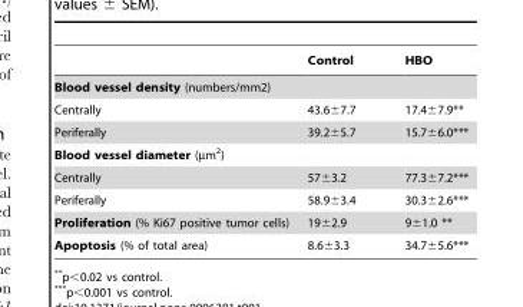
<table><thead><tr><td></td><td>Control</td><td>HBO</td></tr></thead><tbody><tr><td colspan="3">Blood vessel density (numbers/mm2)</td></tr><tr><td>Centrally</td><td>43.6±7.7</td><td>17.4±7.9**</td></tr><tr><td>Periferally</td><td>39.2±5.7</td><td>15.7±6.0***</td></tr><tr><td colspan="3">Blood vessel diameter (µm<sup>2</sup>)</td></tr><tr><td>Centrally</td><td>57±3.2</td><td>77.3±7.2***</td></tr><tr><td>Periferally</td><td>58.9±3.4</td><td>30.3±2.6***</td></tr><tr><td>Proliferation (% Ki67 positive tumor cells)</td><td>19±2.9</td><td>9±1.0 **</td></tr><tr><td>Apoptosis (% of total area)</td><td>8.6±3.3</td><td>34.7±5.6***</td></tr></tbody></table>